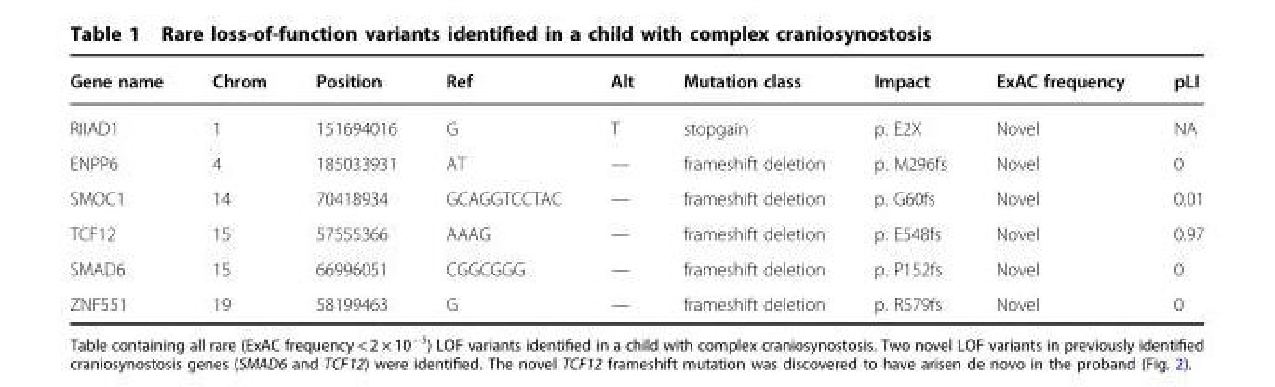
<table><thead><tr><td>Gene name</td><td>Chrom</td><td>Position</td><td>Ref</td><td>Alt</td><td>Mutation class</td><td>Impact</td><td>ExAC frequency</td><td>pLI</td></tr></thead><tbody><tr><td>RIIAD1</td><td>1</td><td>151694016</td><td>G</td><td>T</td><td>stopgain</td><td>p. E2X</td><td>Novel</td><td>NA</td></tr><tr><td>ENPP6</td><td>4</td><td>185033931</td><td>AT</td><td>—</td><td>frameshift deletion</td><td>p. M296fs</td><td>Novel</td><td>0</td></tr><tr><td>SMOC1</td><td>14</td><td>70418934</td><td>GCAGGTCCTAC</td><td>—</td><td>frameshift deletion</td><td>p. G60fs</td><td>Novel</td><td>0.01</td></tr><tr><td>TCF12</td><td>15</td><td>57555366</td><td>AAAG</td><td>—</td><td>frameshift deletion</td><td>p. E548fs</td><td>Novel</td><td>0.97</td></tr><tr><td>SMAD6</td><td>15</td><td>66996051</td><td>CGGCGGG</td><td>—</td><td>frameshift deletion</td><td>p. P152fs</td><td>Novel</td><td>0</td></tr><tr><td>ZNF551</td><td>19</td><td>58199463</td><td>G</td><td>—</td><td>frameshift deletion</td><td>p. R579fs</td><td>Novel</td><td>0</td></tr></tbody></table>